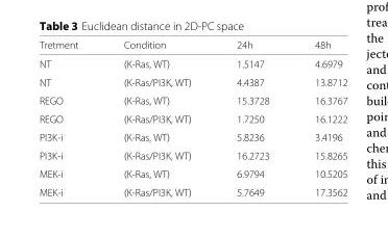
<table><thead><tr><td>Tretment</td><td>Condition</td><td>24h</td><td>48h</td></tr></thead><tbody><tr><td>NT</td><td>(K-Ras, WT)</td><td>1.5147</td><td>4.6979</td></tr><tr><td>NT</td><td>(K-Ras/PI3K, WT)</td><td>4.4387</td><td>13.8712</td></tr><tr><td>REGO</td><td>(K-Ras, WT)</td><td>15.3728</td><td>16.3767</td></tr><tr><td>REGO</td><td>(K-Ras/PI3K, WT)</td><td>1.7250</td><td>16.1222</td></tr><tr><td>PI3K-i</td><td>(K-Ras, WT)</td><td>5.8236</td><td>3.4196</td></tr><tr><td>PI3K-i</td><td>(K-Ras/PI3K, WT)</td><td>16.2723</td><td>15.8265</td></tr><tr><td>MEK-i</td><td>(K-Ras, WT)</td><td>6.9794</td><td>10.5205</td></tr><tr><td>MEK-i</td><td>(K-Ras/PI3K, WT)</td><td>5.7649</td><td>17.3562</td></tr></tbody></table>